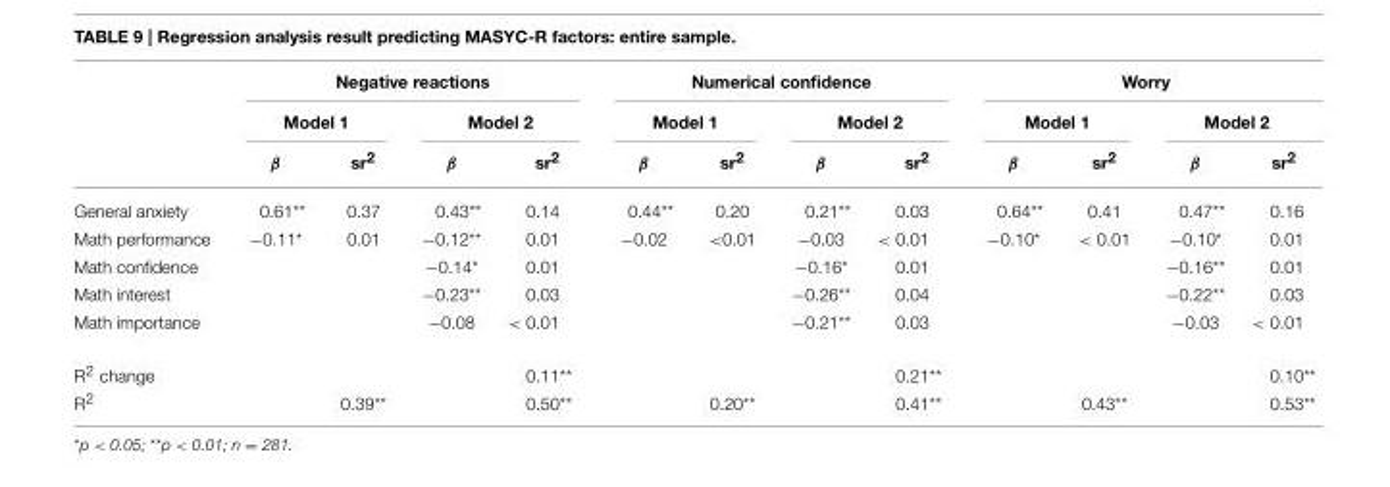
<table><thead><tr><td rowspan="3"></td><td colspan="4">Negative reactions</td><td colspan="4">Numerical confidence</td><td colspan="4">Worry</td></tr><tr><td colspan="2">Model 1</td><td colspan="2">Model 2</td><td colspan="2">Model 1</td><td colspan="2">Model 2</td><td colspan="2">Model 1</td><td colspan="2">Model 2</td></tr><tr><td>β</td><td>sr<sup>2</sup></td><td>β</td><td>sr<sup>2</sup></td><td>β</td><td>sr<sup>2</sup></td><td>β</td><td>sr<sup>2</sup></td><td>β</td><td>sr<sup>2</sup></td><td>β</td><td>sr<sup>2</sup></td></tr></thead><tbody><tr><td>General anxiety</td><td>0.61**</td><td>0.37</td><td>0.43**</td><td>0.14</td><td>0.44**</td><td>0.20</td><td>0.21**</td><td>0.03</td><td>0.64**</td><td>0.41</td><td>0.47**</td><td>0.16</td></tr><tr><td>Math performance</td><td>−0.11*</td><td>0.01</td><td>−0.12**</td><td>0.01</td><td>−0.02</td><td>&lt;0.01</td><td>−0.03</td><td>&lt; 0.01</td><td>−0.10*</td><td>&lt; 0.01</td><td>−0.10*</td><td>0.01</td></tr><tr><td>Math confidence</td><td></td><td></td><td>−0.14*</td><td>0.01</td><td></td><td></td><td>−0.16*</td><td>0.01</td><td></td><td></td><td>−0.16**</td><td>0.01</td></tr><tr><td>Math interest</td><td></td><td></td><td>−0.23**</td><td>0.03</td><td></td><td></td><td>−0.26**</td><td>0.04</td><td></td><td></td><td>−0.22**</td><td>0.03</td></tr><tr><td>Math importance</td><td></td><td></td><td>−0.08</td><td>&lt; 0.01</td><td></td><td></td><td>−0.21**</td><td>0.03</td><td></td><td></td><td>−0.03</td><td>&lt; 0.01</td></tr><tr><td>R<sup>2</sup> change</td><td></td><td></td><td></td><td>0.11**</td><td></td><td></td><td></td><td>0.21**</td><td></td><td></td><td></td><td>0.10**</td></tr><tr><td>R<sup>2</sup></td><td></td><td>0.39**</td><td></td><td>0.50**</td><td></td><td>0.20**</td><td></td><td>0.41**</td><td></td><td>0.43**</td><td></td><td>0.53**</td></tr></tbody></table>